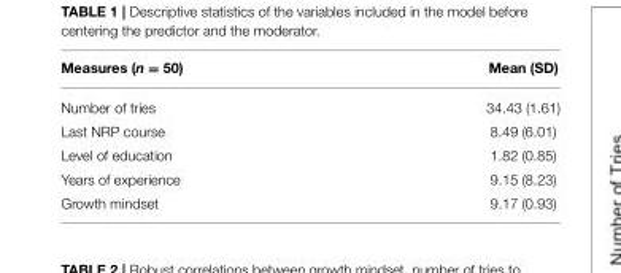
<table><thead><tr><td>Measures (n = 50)</td><td>Mean (SD)</td></tr></thead><tbody><tr><td>Number of tries</td><td>34.43 (1.61)</td></tr><tr><td>Last NRP course</td><td>8.49 (6.01)</td></tr><tr><td>Level of education</td><td>1.82 (0.85)</td></tr><tr><td>Years of experience</td><td>9.15 (8.23)</td></tr><tr><td>Growth mindset</td><td>9.17 (0.93)</td></tr></tbody></table>